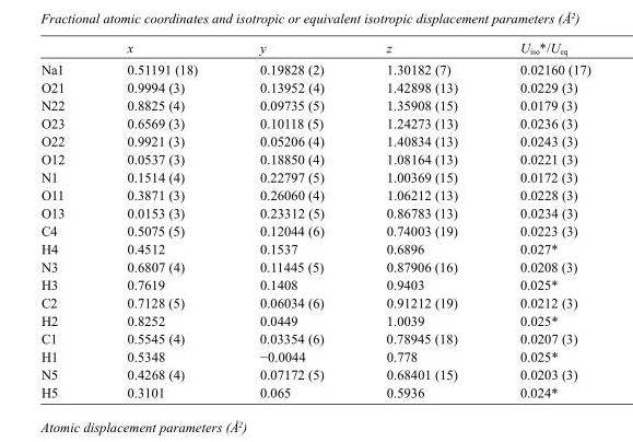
<table><thead><tr><td></td><td>x</td><td>y</td><td>z</td><td>U<sub>iso</sub>*/U<sub>eq</sub></td></tr></thead><tbody><tr><td>Na1</td><td>0.51191 (18)</td><td>0.19828 (2)</td><td>1.30182 (7)</td><td>0.02160 (17)</td></tr><tr><td>O21</td><td>0.9994 (3)</td><td>0.13952 (4)</td><td>1.42898 (13)</td><td>0.0229 (3)</td></tr><tr><td>N22</td><td>0.8825 (4)</td><td>0.09735 (5)</td><td>1.35908 (15)</td><td>0.0179 (3)</td></tr><tr><td>O23</td><td>0.6569 (3)</td><td>0.10118 (5)</td><td>1.24273 (13)</td><td>0.0236 (3)</td></tr><tr><td>O22</td><td>0.9921 (3)</td><td>0.05206 (4)</td><td>1.40834 (13)</td><td>0.0243 (3)</td></tr><tr><td>O12</td><td>0.0537 (3)</td><td>0.18850 (4)</td><td>1.08164 (13)</td><td>0.0221 (3)</td></tr><tr><td>N1</td><td>0.1514 (4)</td><td>0.22797 (5)</td><td>1.00369 (15)</td><td>0.0172 (3)</td></tr><tr><td>O11</td><td>0.3871 (3)</td><td>0.26060 (4)</td><td>1.06212 (13)</td><td>0.0228 (3)</td></tr><tr><td>O13</td><td>0.0153 (3)</td><td>0.23312 (5)</td><td>0.86783 (13)</td><td>0.0234 (3)</td></tr><tr><td>C4</td><td>0.5075 (5)</td><td>0.12044 (6)</td><td>0.74003 (19)</td><td>0.0223 (3)</td></tr><tr><td>H4</td><td>0.4512</td><td>0.1537</td><td>0.6896</td><td>0.027*</td></tr><tr><td>N3</td><td>0.6807 (4)</td><td>0.11445 (5)</td><td>0.87906 (16)</td><td>0.0208 (3)</td></tr><tr><td>H3</td><td>0.7619</td><td>0.1408</td><td>0.9403</td><td>0.025*</td></tr><tr><td>C2</td><td>0.7128 (5)</td><td>0.06034 (6)</td><td>0.91212 (19)</td><td>0.0212 (3)</td></tr><tr><td>H2</td><td>0.8252</td><td>0.0449</td><td>1.0039</td><td>0.025*</td></tr><tr><td>C1</td><td>0.5545 (4)</td><td>0.03354 (6)</td><td>0.78945 (18)</td><td>0.0207 (3)</td></tr><tr><td>H1</td><td>0.5348</td><td>−0.0044</td><td>0.778</td><td>0.025*</td></tr><tr><td>N5</td><td>0.4268 (4)</td><td>0.07172 (5)</td><td>0.68401 (15)</td><td>0.0203 (3)</td></tr><tr><td>H5</td><td>0.3101</td><td>0.065</td><td>0.5936</td><td>0.024*</td></tr></tbody></table>